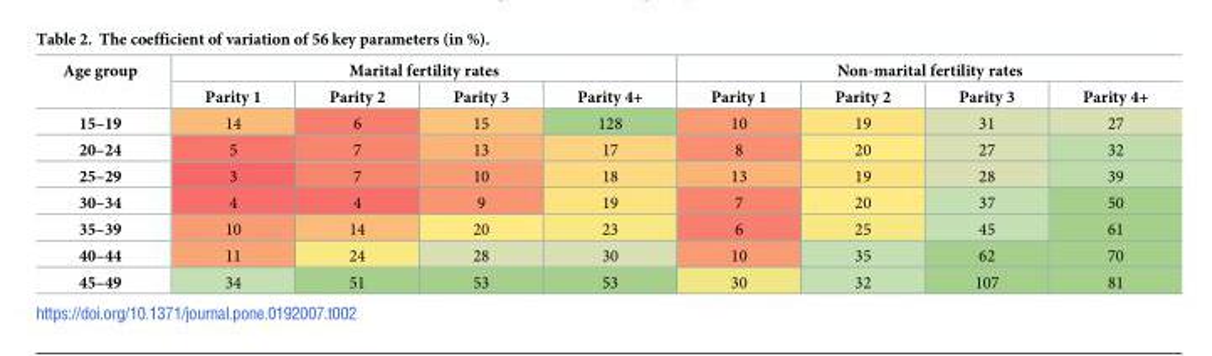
<table><thead><tr><td rowspan="2">Age group</td><td colspan="4">Marital fertility rates</td><td colspan="4">Non-marital fertility rates</td></tr><tr><td>Parity 1</td><td>Parity 2</td><td>Parity 3</td><td>Parity 4+</td><td>Parity 1</td><td>Parity 2</td><td>Parity 3</td><td>Parity 4+</td></tr></thead><tbody><tr><td>15–19</td><td>14</td><td>6</td><td>15</td><td>128</td><td>10</td><td>19</td><td>31</td><td>27</td></tr><tr><td>20–24</td><td>5</td><td>7</td><td>13</td><td>17</td><td>8</td><td>20</td><td>27</td><td>32</td></tr><tr><td>25–29</td><td>3</td><td>7</td><td>10</td><td>18</td><td>13</td><td>19</td><td>28</td><td>39</td></tr><tr><td>30–34</td><td>4</td><td>4</td><td>9</td><td>19</td><td>7</td><td>20</td><td>37</td><td>50</td></tr><tr><td>35–39</td><td>10</td><td>14</td><td>20</td><td>23</td><td>6</td><td>25</td><td>45</td><td>61</td></tr><tr><td>40–44</td><td>11</td><td>24</td><td>28</td><td>30</td><td>10</td><td>35</td><td>62</td><td>70</td></tr><tr><td>45–49</td><td>34</td><td>51</td><td>53</td><td>53</td><td>30</td><td>32</td><td>107</td><td>81</td></tr></tbody></table>